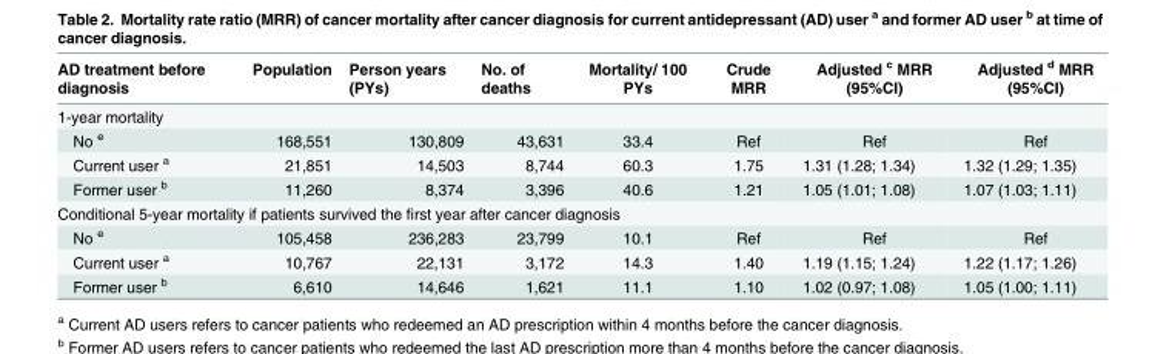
<table><thead><tr><td>AD treatment before diagnosis</td><td>Population</td><td>Person years (PYs)</td><td>No. of deaths</td><td>Mortality/ 100 PYs</td><td>Crude MRR</td><td>Adjusted <sup>c</sup> MRR (95%CI)</td><td>Adjusted <sup>d</sup> MRR (95%CI)</td></tr></thead><tbody><tr><td colspan="8">1-year mortality</td></tr><tr><td>No <sup>e</sup></td><td>168,551</td><td>130,809</td><td>43,631</td><td>33.4</td><td>Ref</td><td>Ref</td><td>Ref</td></tr><tr><td>Current user <sup>a</sup></td><td>21,851</td><td>14,503</td><td>8,744</td><td>60.3</td><td>1.75</td><td>1.31 (1.28; 1.34)</td><td>1.32 (1.29; 1.35)</td></tr><tr><td>Former user <sup>b</sup></td><td>11,260</td><td>8,374</td><td>3,396</td><td>40.6</td><td>1.21</td><td>1.05 (1.01; 1.08)</td><td>1.07 (1.03; 1.11)</td></tr><tr><td colspan="8">Conditional 5-year mortality if patients survived the first year after cancer diagnosis</td></tr><tr><td>No <sup>e</sup></td><td>105,458</td><td>236,283</td><td>23,799</td><td>10.1</td><td>Ref</td><td>Ref</td><td>Ref</td></tr><tr><td>Current user <sup>a</sup></td><td>10,767</td><td>22,131</td><td>3,172</td><td>14.3</td><td>1.40</td><td>1.19 (1.15; 1.24)</td><td>1.22 (1.17; 1.26)</td></tr><tr><td>Former user <sup>b</sup></td><td>6,610</td><td>14,646</td><td>1,621</td><td>11.1</td><td>1.10</td><td>1.02 (0.97; 1.08)</td><td>1.05 (1.00; 1.11)</td></tr></tbody></table>